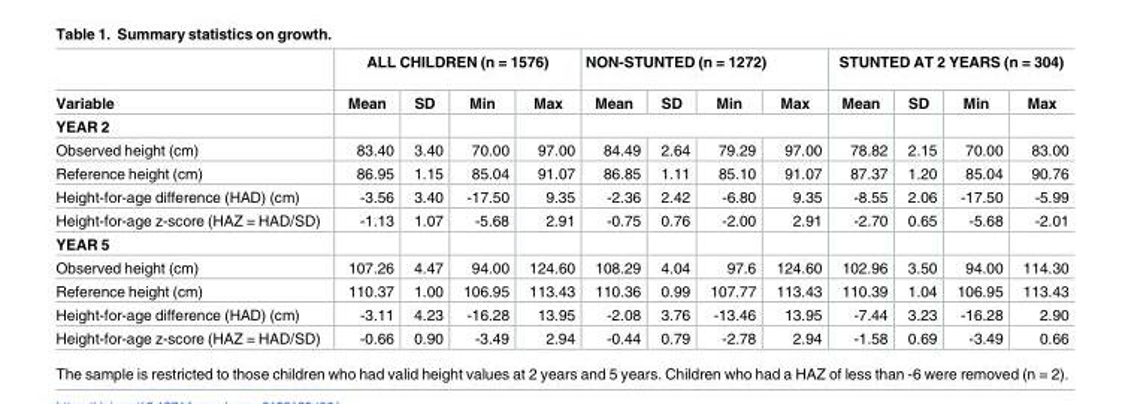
<table><thead><tr><td rowspan="2">Variable</td><td colspan="4">ALL CHILDREN (n = 1576)</td><td colspan="4">NON-STUNTED (n = 1272)</td><td colspan="4">STUNTED AT 2 YEARS (n = 304)</td></tr><tr><td>Mean</td><td>SD</td><td>Min</td><td>Max</td><td>Mean</td><td>SD</td><td>Min</td><td>Max</td><td>Mean</td><td>SD</td><td>Min</td><td>Max</td></tr></thead><tbody><tr><td colspan="13">YEAR 2</td></tr><tr><td>Observed height (cm)</td><td>83.40</td><td>3.40</td><td>70.00</td><td>97.00</td><td>84.49</td><td>2.64</td><td>79.29</td><td>97.00</td><td>78.82</td><td>2.15</td><td>70.00</td><td>83.00</td></tr><tr><td>Reference height (cm)</td><td>86.95</td><td>1.15</td><td>85.04</td><td>91.07</td><td>86.85</td><td>1.11</td><td>85.10</td><td>91.07</td><td>87.37</td><td>1.20</td><td>85.04</td><td>90.76</td></tr><tr><td>Height-for-age difference (HAD) (cm)</td><td>-3.56</td><td>3.40</td><td>-17.50</td><td>9.35</td><td>-2.36</td><td>2.42</td><td>-6.80</td><td>9.35</td><td>-8.55</td><td>2.06</td><td>-17.50</td><td>-5.99</td></tr><tr><td>Height-for-age z-score (HAZ = HAD/SD)</td><td>-1.13</td><td>1.07</td><td>-5.68</td><td>2.91</td><td>-0.75</td><td>0.76</td><td>-2.00</td><td>2.91</td><td>-2.70</td><td>0.65</td><td>-5.68</td><td>-2.01</td></tr><tr><td colspan="13">YEAR 5</td></tr><tr><td>Observed height (cm)</td><td>107.26</td><td>4.47</td><td>94.00</td><td>124.60</td><td>108.29</td><td>4.04</td><td>97.6</td><td>124.60</td><td>102.96</td><td>3.50</td><td>94.00</td><td>114.30</td></tr><tr><td>Reference height (cm)</td><td>110.37</td><td>1.00</td><td>106.95</td><td>113.43</td><td>110.36</td><td>0.99</td><td>107.77</td><td>113.43</td><td>110.39</td><td>1.04</td><td>106.95</td><td>113.43</td></tr><tr><td>Height-for-age difference (HAD) (cm)</td><td>-3.11</td><td>4.23</td><td>-16.28</td><td>13.95</td><td>-2.08</td><td>3.76</td><td>-13.46</td><td>13.95</td><td>-7.44</td><td>3.23</td><td>-16.28</td><td>2.90</td></tr><tr><td>Height-for-age z-score (HAZ = HAD/SD)</td><td>-0.66</td><td>0.90</td><td>-3.49</td><td>2.94</td><td>-0.44</td><td>0.79</td><td>-2.78</td><td>2.94</td><td>-1.58</td><td>0.69</td><td>-3.49</td><td>0.66</td></tr></tbody></table>